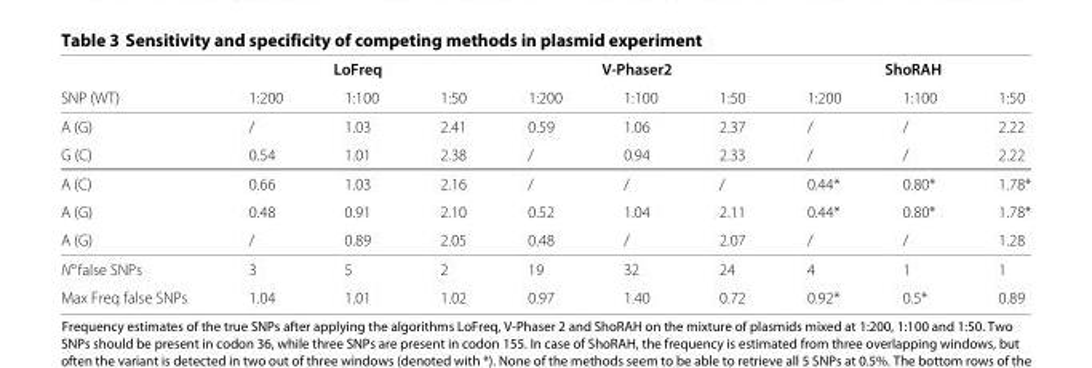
<table><thead><tr><td rowspan="2">SNP (WT)</td><td colspan="3">LoFreq</td><td colspan="3">V-Phaser2</td><td colspan="3">ShoRAH</td></tr><tr><td>1:200</td><td>1:100</td><td>1:50</td><td>1:200</td><td>1:100</td><td>1:50</td><td>1:200</td><td>1:100</td><td>1:50</td></tr></thead><tbody><tr><td>A (G)</td><td>/</td><td>1.03</td><td>2.41</td><td>0.59</td><td>1.06</td><td>2.37</td><td>/</td><td>/</td><td>2.22</td></tr><tr><td>G (C)</td><td>0.54</td><td>1.01</td><td>2.38</td><td>/</td><td>0.94</td><td>2.33</td><td>/</td><td>/</td><td>2.22</td></tr><tr><td>A (C)</td><td>0.66</td><td>1.03</td><td>2.16</td><td>/</td><td>/</td><td>/</td><td>0.44*</td><td>0.80*</td><td>1.78*</td></tr><tr><td>A (G)</td><td>0.48</td><td>0.91</td><td>2.10</td><td>0.52</td><td>1.04</td><td>2.11</td><td>0.44*</td><td>0.80*</td><td>1.78*</td></tr><tr><td>A (G)</td><td>/</td><td>0.89</td><td>2.05</td><td>0.48</td><td>/</td><td>2.07</td><td>/</td><td>/</td><td>1.28</td></tr><tr><td>N◦false SNPs</td><td>3</td><td>5</td><td>2</td><td>19</td><td>32</td><td>24</td><td>4</td><td>1</td><td>1</td></tr><tr><td>Max Freq false SNPs</td><td>1.04</td><td>1.01</td><td>1.02</td><td>0.97</td><td>1.40</td><td>0.72</td><td>0.92*</td><td>0.5*</td><td>0.89</td></tr></tbody></table>